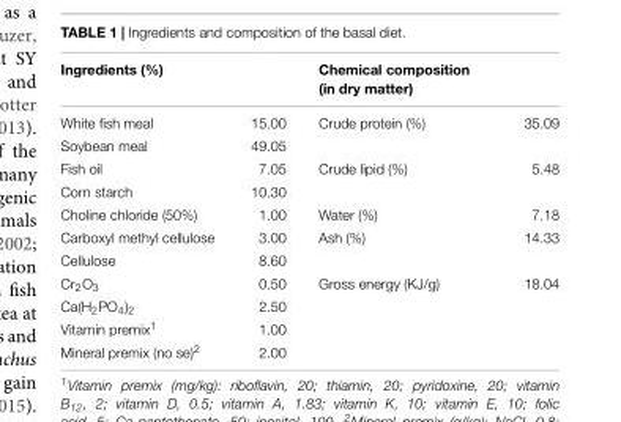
<table><thead><tr><td>Ingredients (%)</td><td></td><td>Chemical composition (in dry matter)</td><td></td></tr></thead><tbody><tr><td>White fish meal</td><td>15.00</td><td>Crude protein (%)</td><td>35.09</td></tr><tr><td>Soybean meal</td><td>49.05</td><td></td><td></td></tr><tr><td>Fish oil</td><td>7.05</td><td>Crude lipid (%)</td><td>5.48</td></tr><tr><td>Corn starch</td><td>10.30</td><td></td><td></td></tr><tr><td>Choline chloride (50%)</td><td>1.00</td><td>Water (%)</td><td>7.18</td></tr><tr><td>Carboxyl methyl cellulose</td><td>3.00</td><td>Ash (%)</td><td>14.33</td></tr><tr><td>Cellulose</td><td>8.60</td><td></td><td></td></tr><tr><td>Cr<sub>2</sub>O<sub>3</sub></td><td>0.50</td><td>Gross energy (KJ/g)</td><td>18.04</td></tr><tr><td>Ca(H<sub>2</sub>PO<sub>4</sub>)<sub>2</sub></td><td>2.50</td><td></td><td></td></tr><tr><td>Vitamin premix<sup>1</sup></td><td>1.00</td><td></td><td></td></tr><tr><td>Mineral premix (no se)<sup>2</sup></td><td>2.00</td><td></td><td></td></tr></tbody></table>